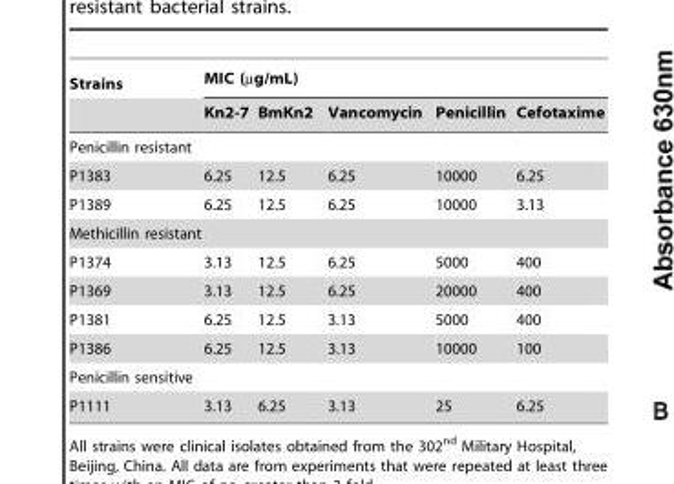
<table><thead><tr><td rowspan="2">Strains</td><td colspan="5">MIC (µg/mL)</td></tr><tr><td>Kn2-7</td><td>BmKn2</td><td>Vancomycin</td><td>Penicillin</td><td>Cefotaxime</td></tr></thead><tbody><tr><td colspan="6">Penicillin resistant</td></tr><tr><td>P1383</td><td>6.25</td><td>12.5</td><td>6.25</td><td>10000</td><td>6.25</td></tr><tr><td>P1389</td><td>6.25</td><td>12.5</td><td>6.25</td><td>10000</td><td>3.13</td></tr><tr><td colspan="6">Methicillin resistant</td></tr><tr><td>P1374</td><td>3.13</td><td>12.5</td><td>6.25</td><td>5000</td><td>400</td></tr><tr><td>P1369</td><td>3.13</td><td>12.5</td><td>6.25</td><td>20000</td><td>400</td></tr><tr><td>P1381</td><td>6.25</td><td>12.5</td><td>3.13</td><td>5000</td><td>400</td></tr><tr><td>P1386</td><td>6.25</td><td>12.5</td><td>3.13</td><td>10000</td><td>100</td></tr><tr><td colspan="6">Penicillin sensitive</td></tr><tr><td>P1111</td><td>3.13</td><td>6.25</td><td>3.13</td><td>25</td><td>6.25</td></tr></tbody></table>